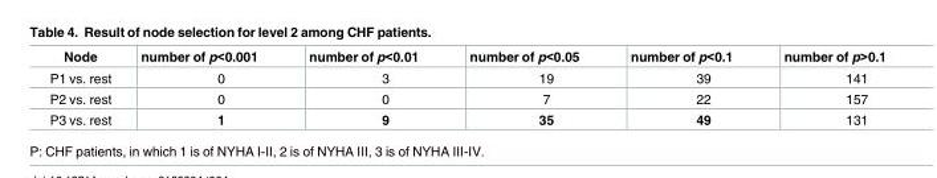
<table><thead><tr><td>Node</td><td>number of p&lt;0.001</td><td>number of p&lt;0.01</td><td>number of p&lt;0.05</td><td>number of p&lt;0.1</td><td>number of p&gt;0.1</td></tr></thead><tbody><tr><td>P1 vs. rest</td><td>0</td><td>3</td><td>19</td><td>39</td><td>141</td></tr><tr><td>P2 vs. rest</td><td>0</td><td>0</td><td>7</td><td>22</td><td>157</td></tr><tr><td>P3 vs. rest</td><td>1</td><td>9</td><td>35</td><td>49</td><td>131</td></tr></tbody></table>